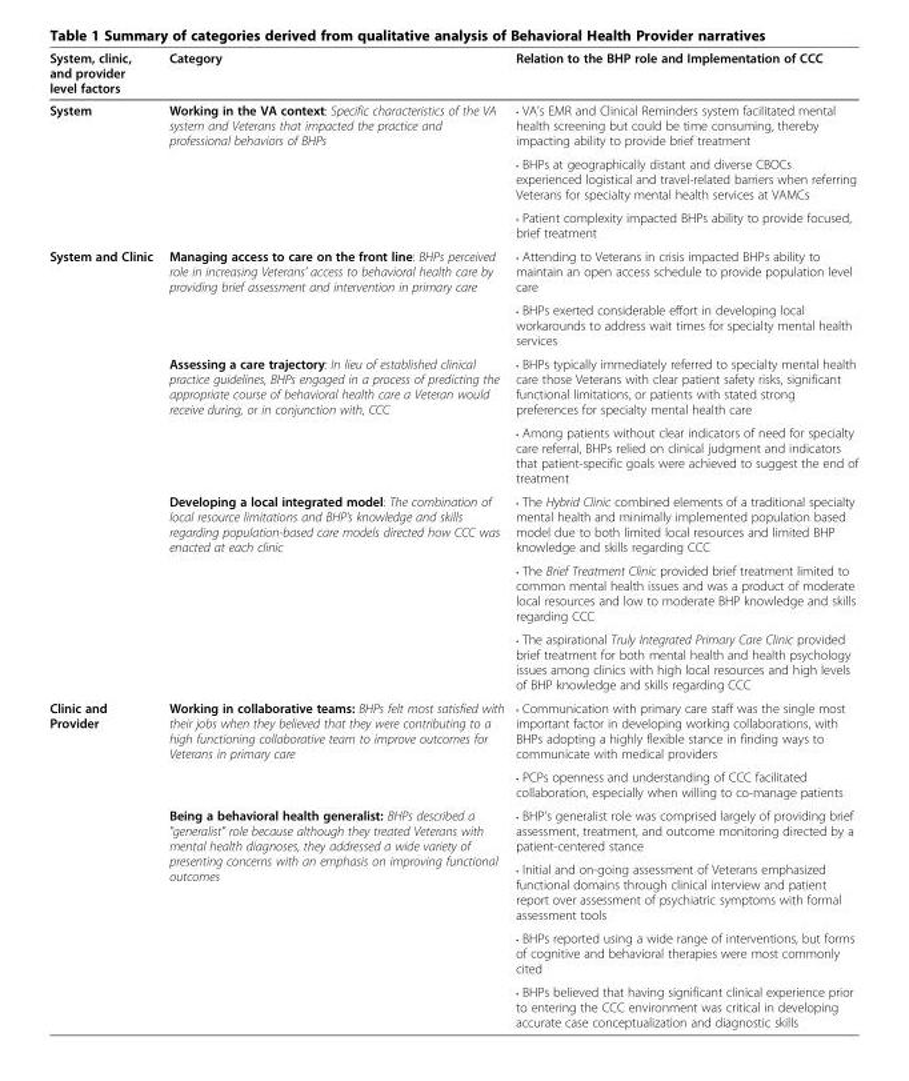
<table><thead><tr><td>System, clinic, and provider level factors</td><td>Category</td><td>Relation to the BHP role and Implementation of CCC</td></tr></thead><tbody><tr><td rowspan="3">System</td><td rowspan="3">Working in the VA context: Specific characteristics of the VA system and Veterans that impacted the practice and professional behaviors of BHPs</td><td>• VA&#x27;s EMR and Clinical Reminders system facilitated mental health screening but could be time consuming, thereby impacting ability to provide brief treatment</td></tr><tr><td>• BHPs at geographically distant and diverse CBOCs experienced logistical and travel-related barriers when referring Veterans for specialty mental health services at VAMCs</td></tr><tr><td>• Patient complexity impacted BHPs ability to provide focused, brief treatment</td></tr><tr><td rowspan="7">System and Clinic</td><td rowspan="2">Managing access to care on the front line: BHPs perceived role in increasing Veterans’ access to behavioral health care by providing brief assessment and intervention in primary care</td><td>• Attending to Veterans in crisis impacted BHPs ability to maintain an open access schedule to provide population level care</td></tr><tr><td>• BHPs exerted considerable effort in developing local workarounds to address wait times for specialty mental health services</td></tr><tr><td rowspan="2">Assessing a care trajectory: In lieu of established clinical practice guidelines, BHPs engaged in a process of predicting the appropriate course of behavioral health care a Veteran would receive during, or in conjunction with, CCC</td><td>• BHPs typically immediately referred to specialty mental health care those Veterans with clear patient safety risks, significant functional limitations, or patients with stated strong preferences for specialty mental health care</td></tr><tr><td>• Among patients without clear indicators of need for specialty care referral, BHPs relied on clinical judgment and indicators that patient-specific goals were achieved to suggest the end of treatment</td></tr><tr><td rowspan="3">Developing a local integrated model: The combination of local resource limitations and BHP’s knowledge and skills regarding population-based care models directed how CCC was enacted at each clinic</td><td>• The Hybrid Clinic combined elements of a traditional specialty mental health and minimally implemented population based model due to both limited local resources and limited BHP knowledge and skills regarding CCC</td></tr><tr><td>• The Brief Treatment Clinic provided brief treatment limited to common mental health issues and was a product of moderate local resources and low to moderate BHP knowledge and skills regarding CCC</td></tr><tr><td>• The aspirational Truly Integrated Primary Care Clinic provided brief treatment for both mental health and health psychology issues among clinics with high local resources and high levels of BHP knowledge and skills regarding CCC</td></tr><tr><td rowspan="6">Clinic and Provider</td><td rowspan="2">Working in collaborative teams: BHPs felt most satisfied with their jobs when they believed that they were contributing to a high functioning collaborative team to improve outcomes for Veterans in primary care</td><td>• Communication with primary care staff was the single most important factor in developing working collaborations, with BHPs adopting a highly flexible stance in finding ways to communicate with medical providers</td></tr><tr><td>• PCPs openness and understanding of CCC facilitated collaboration, especially when willing to co-manage patients</td></tr><tr><td rowspan="3">Being a behavioral health generalist: BHPs described a &quot;generalist&quot; role because although they treated Veterans with mental health diagnoses, they addressed a wide variety of presenting concerns with an emphasis on improving functional outcomes</td><td>• BHP&#x27;s generalist role was comprised largely of providing brief assessment, treatment, and outcome monitoring directed by a patient-centered stance</td></tr><tr><td>• Initial and on-going assessment of Veterans emphasized functional domains through clinical interview and patient report over assessment of psychiatric symptoms with formal assessment tools</td></tr><tr><td>• BHPs reported using a wide range of interventions, but forms of cognitive and behavioral therapies were most commonly cited</td></tr><tr><td></td><td>• BHPs believed that having significant clinical experience prior to entering the CCC environment was critical in developing accurate case conceptualization and diagnostic skills</td></tr></tbody></table>